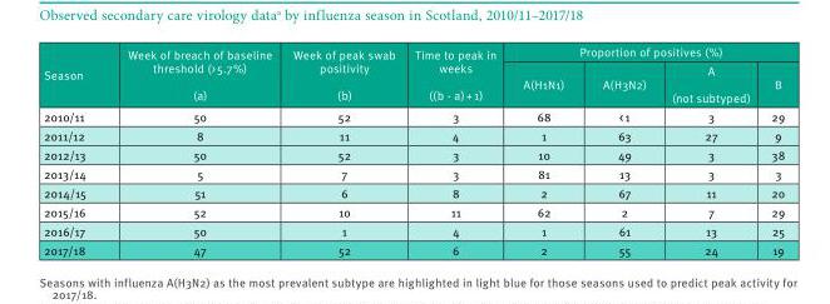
<table><thead><tr><td rowspan="2">Season</td><td rowspan="2">Week of breach of baseline threshold (&gt; 5.7%) (a)</td><td rowspan="2">Week of peak swab positivity (b)</td><td rowspan="2">Time to peak in weeks ((b - a) + 1)</td><td colspan="4">Proportion of positives (%)</td></tr><tr><td>A(H1N1)</td><td>A(H3N2)</td><td>A (not subtyped)</td><td>B</td></tr></thead><tbody><tr><td>2010/11</td><td>50</td><td>52</td><td>3</td><td>68</td><td>&lt; 1</td><td>3</td><td>29</td></tr><tr><td>2011/12</td><td>8</td><td>11</td><td>4</td><td>1</td><td>63</td><td>27</td><td>9</td></tr><tr><td>2012/13</td><td>50</td><td>52</td><td>3</td><td>10</td><td>49</td><td>3</td><td>38</td></tr><tr><td>2013/14</td><td>5</td><td>7</td><td>3</td><td>81</td><td>13</td><td>3</td><td>3</td></tr><tr><td>2014/15</td><td>51</td><td>6</td><td>8</td><td>2</td><td>67</td><td>11</td><td>20</td></tr><tr><td>2015/16</td><td>52</td><td>10</td><td>11</td><td>62</td><td>2</td><td>7</td><td>29</td></tr><tr><td>2016/17</td><td>50</td><td>1</td><td>4</td><td>1</td><td>61</td><td>13</td><td>25</td></tr><tr><td>2017/18</td><td>47</td><td>52</td><td>6</td><td>2</td><td>55</td><td>24</td><td>19</td></tr></tbody></table>